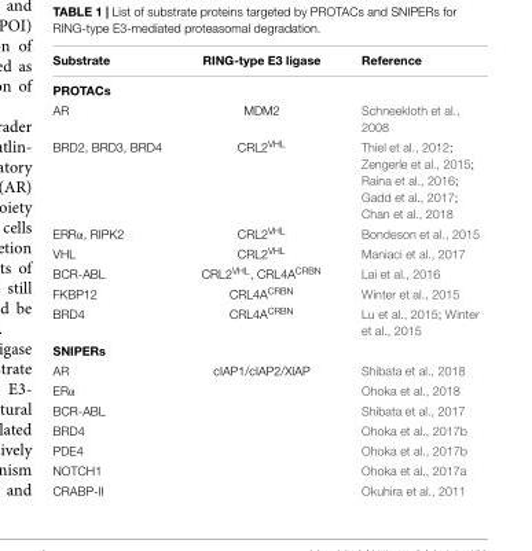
<table><thead><tr><td>Substrate</td><td>RING-type E3 ligase</td><td>Reference</td></tr></thead><tbody><tr><td colspan="3">PROTACs</td></tr><tr><td>AR</td><td>MDM2</td><td>Schneekloth et al., 2008</td></tr><tr><td>BRD2, BRD3, BRD4</td><td>CRL2<sup>VHL</sup></td><td>Thiel et al., 2012; Zengerle et al., 2015; Raina et al., 2016; Gadd et al., 2017; Chan et al., 2018</td></tr><tr><td>ERRα, RIPK2</td><td>CRL2<sup>VHL</sup></td><td>Bondeson et al., 2015</td></tr><tr><td>VHL</td><td>CRL2<sup>VHL</sup></td><td>Maniaci et al., 2017</td></tr><tr><td>BCR-ABL</td><td>CRL2<sup>VHL</sup>, CRL4A<sup>CRBN</sup></td><td>Lai et al., 2016</td></tr><tr><td>FKBP12</td><td>CRL4A<sup>CRBN</sup></td><td>Winter et al., 2015</td></tr><tr><td>BRD4</td><td>CRL4A<sup>CRBN</sup></td><td>Lu et al., 2015; Winter et al., 2015</td></tr><tr><td colspan="3">SNIPERs</td></tr><tr><td>AR</td><td>cIAP1/cIAP2/XIAP</td><td>Shibata et al., 2018</td></tr><tr><td>ERα</td><td></td><td>Ohoka et al., 2018</td></tr><tr><td>BCR-ABL</td><td></td><td>Shibata et al., 2017</td></tr><tr><td>BRD4</td><td></td><td>Ohoka et al., 2017b</td></tr><tr><td>PDE4</td><td></td><td>Ohoka et al., 2017b</td></tr><tr><td>NOTCH1</td><td></td><td>Ohoka et al., 2017a</td></tr><tr><td>CRABP-II</td><td></td><td>Okuhira et al., 2011</td></tr></tbody></table>